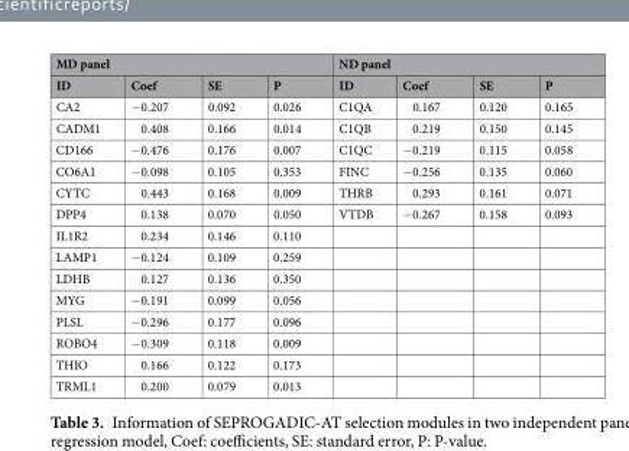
<table><thead><tr><td colspan="4">MD panel</td><td colspan="4">ND panel</td></tr><tr><td>ID</td><td>Coef</td><td>SE</td><td>P</td><td>ID</td><td>Coef</td><td>SE</td><td>P</td></tr></thead><tbody><tr><td>CA2</td><td>−0.207</td><td>0.092</td><td>0.026</td><td>C1QA</td><td>0.167</td><td>0.120</td><td>0.165</td></tr><tr><td>CADM1</td><td>0.408</td><td>0.166</td><td>0.014</td><td>C1QB</td><td>0.219</td><td>0.150</td><td>0.145</td></tr><tr><td>CD166</td><td>−0.476</td><td>0.176</td><td>0.007</td><td>C1QC</td><td>−0.219</td><td>0.115</td><td>0.058</td></tr><tr><td>CO6A1</td><td>−0.098</td><td>0.105</td><td>0.353</td><td>FINC</td><td>−0.256</td><td>0.135</td><td>0.060</td></tr><tr><td>CYTC</td><td>0.443</td><td>0.168</td><td>0.009</td><td>THRB</td><td>0.293</td><td>0.161</td><td>0.071</td></tr><tr><td>DPP4</td><td>0.138</td><td>0.070</td><td>0.050</td><td>VTDB</td><td>−0.267</td><td>0.158</td><td>0.093</td></tr><tr><td>IL1R2</td><td>0.234</td><td>0.146</td><td>0.110</td><td></td><td></td><td></td><td></td></tr><tr><td>LAMP1</td><td>−0.124</td><td>0.109</td><td>0.259</td><td></td><td></td><td></td><td></td></tr><tr><td>LDHB</td><td>0.127</td><td>0.136</td><td>0.350</td><td></td><td></td><td></td><td></td></tr><tr><td>MYG</td><td>−0.191</td><td>0.099</td><td>0.056</td><td></td><td></td><td></td><td></td></tr><tr><td>PLSL</td><td>−0.296</td><td>0.177</td><td>0.096</td><td></td><td></td><td></td><td></td></tr><tr><td>ROBO4</td><td>−0.309</td><td>0.118</td><td>0.009</td><td></td><td></td><td></td><td></td></tr><tr><td>THIO</td><td>0.166</td><td>0.122</td><td>0.173</td><td></td><td></td><td></td><td></td></tr><tr><td>TRML1</td><td>0.200</td><td>0.079</td><td>0.013</td><td></td><td></td><td></td><td></td></tr></tbody></table>